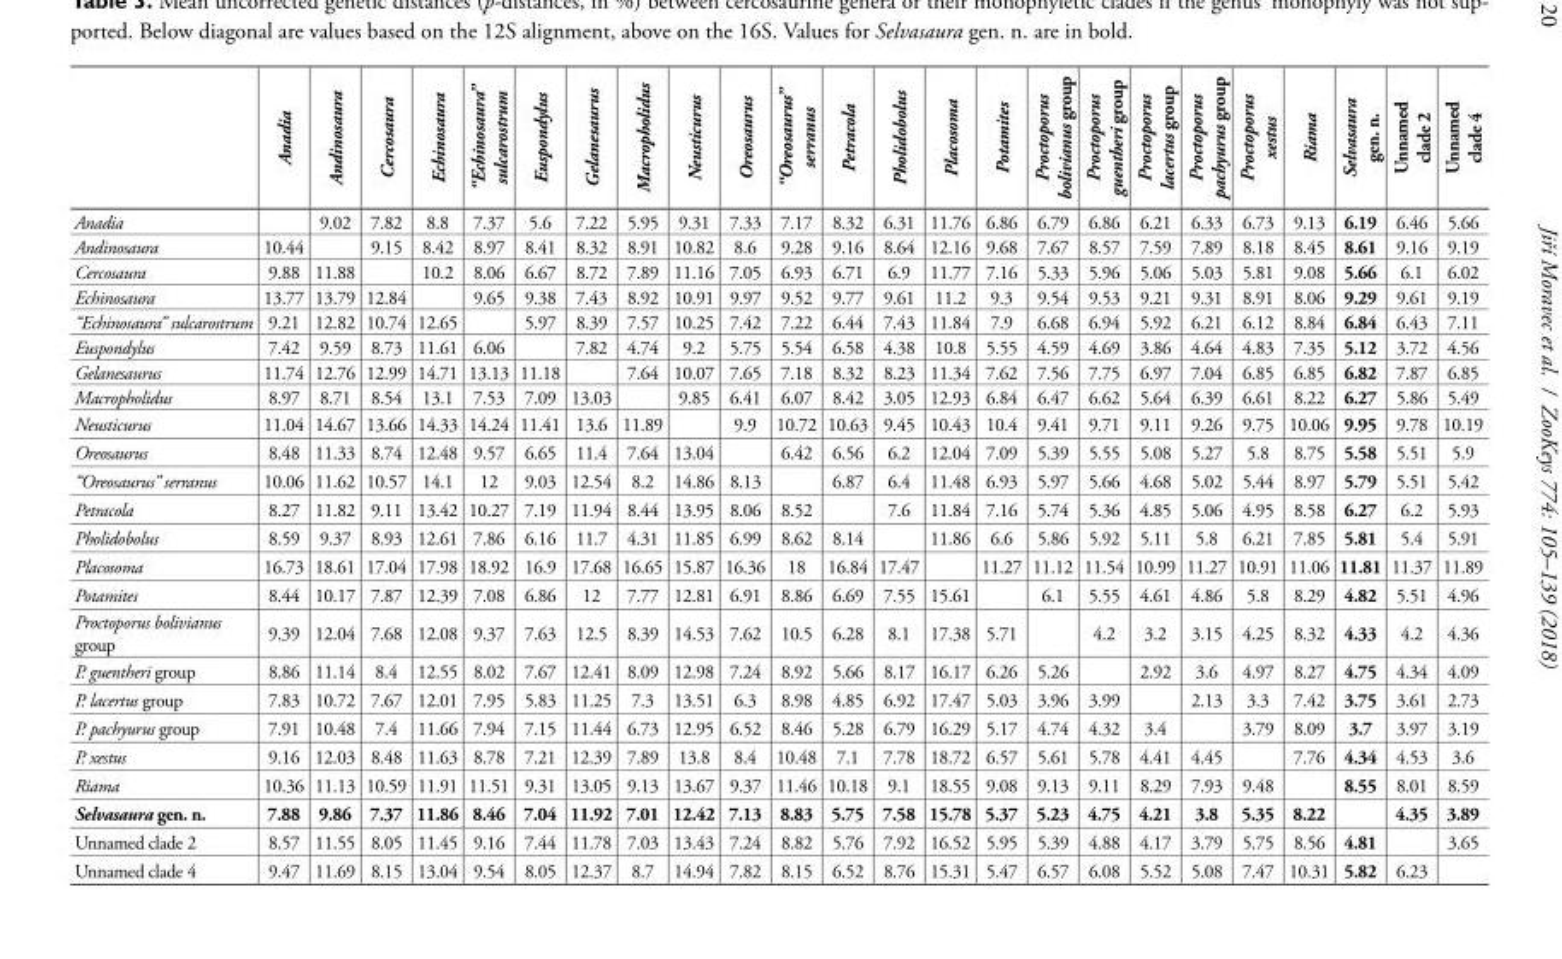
<table><thead><tr><td></td><td>Anadia</td><td>Andinosaura</td><td>Cercosaura</td><td>Echinosaura</td><td>“Echinosaura” sulcarostrum</td><td>Euspondylus</td><td>Gelanesaurus</td><td>Macropholidus</td><td>Neusticurus</td><td>Oreosaurus</td><td>“Oreosaurus” serranus</td><td>Petracola</td><td>Pholidobolus</td><td>Placosoma</td><td>Potamites</td><td>Proctoporus bolivianus group</td><td>Proctoporus guentheri group</td><td>Proctoporus lacertus group</td><td>Proctoporus pachyurus group</td><td>Proctoporus xestus</td><td>Riama</td><td>Selvasaura gen. n.</td><td>Unnamed clade 2</td><td>Unnamed clade 4</td></tr></thead><tbody><tr><td>Anadia</td><td></td><td>9.02</td><td>7.82</td><td>8.8</td><td>7.37</td><td>5.6</td><td>7.22</td><td>5.95</td><td>9.31</td><td>7.33</td><td>7.17</td><td>8.32</td><td>6.31</td><td>11.76</td><td>6.86</td><td>6.79</td><td>6.86</td><td>6.21</td><td>6.33</td><td>6.73</td><td>9.13</td><td>6.19</td><td>6.46</td><td>5.66</td></tr><tr><td>Andinosaura</td><td>10.44</td><td></td><td>9.15</td><td>8.42</td><td>8.97</td><td>8.41</td><td>8.32</td><td>8.91</td><td>10.82</td><td>8.6</td><td>9.28</td><td>9.16</td><td>8.64</td><td>12.16</td><td>9.68</td><td>7.67</td><td>8.57</td><td>7.59</td><td>7.89</td><td>8.18</td><td>8.45</td><td>8.61</td><td>9.16</td><td>9.19</td></tr><tr><td>Cercosaura</td><td>9.88</td><td>11.88</td><td></td><td>10.2</td><td>8.06</td><td>6.67</td><td>8.72</td><td>7.89</td><td>11.16</td><td>7.05</td><td>6.93</td><td>6.71</td><td>6.9</td><td>11.77</td><td>7.16</td><td>5.33</td><td>5.96</td><td>5.06</td><td>5.03</td><td>5.81</td><td>9.08</td><td>5.66</td><td>6.1</td><td>6.02</td></tr><tr><td>Echinosaura</td><td>13.77</td><td>13.79</td><td>12.84</td><td></td><td>9.65</td><td>9.38</td><td>7.43</td><td>8.92</td><td>10.91</td><td>9.97</td><td>9.52</td><td>9.77</td><td>9.61</td><td>11.2</td><td>9.3</td><td>9.54</td><td>9.53</td><td>9.21</td><td>9.31</td><td>8.91</td><td>8.06</td><td>9.29</td><td>9.61</td><td>9.19</td></tr><tr><td>“Echinosaura” sulcarostrum</td><td>9.21</td><td>12.82</td><td>10.74</td><td>12.65</td><td></td><td>5.97</td><td>8.39</td><td>7.57</td><td>10.25</td><td>7.42</td><td>7.22</td><td>6.44</td><td>7.43</td><td>11.84</td><td>7.9</td><td>6.68</td><td>6.94</td><td>5.92</td><td>6.21</td><td>6.12</td><td>8.84</td><td>6.84</td><td>6.43</td><td>7.11</td></tr><tr><td>Euspondylus</td><td>7.42</td><td>9.59</td><td>8.73</td><td>11.61</td><td>6.06</td><td></td><td>7.82</td><td>4.74</td><td>9.2</td><td>5.75</td><td>5.54</td><td>6.58</td><td>4.38</td><td>10.8</td><td>5.55</td><td>4.59</td><td>4.69</td><td>3.86</td><td>4.64</td><td>4.83</td><td>7.35</td><td>5.12</td><td>3.72</td><td>4.56</td></tr><tr><td>Gelanesaurus</td><td>11.74</td><td>12.76</td><td>12.99</td><td>14.71</td><td>13.13</td><td>11.18</td><td></td><td>7.64</td><td>10.07</td><td>7.65</td><td>7.18</td><td>8.32</td><td>8.23</td><td>11.34</td><td>7.62</td><td>7.56</td><td>7.75</td><td>6.97</td><td>7.04</td><td>6.85</td><td>6.85</td><td>6.82</td><td>7.87</td><td>6.85</td></tr><tr><td>Macropholidus</td><td>8.97</td><td>8.71</td><td>8.54</td><td>13.1</td><td>7.53</td><td>7.09</td><td>13.03</td><td></td><td>9.85</td><td>6.41</td><td>6.07</td><td>8.42</td><td>3.05</td><td>12.93</td><td>6.84</td><td>6.47</td><td>6.62</td><td>5.64</td><td>6.39</td><td>6.61</td><td>8.22</td><td>6.27</td><td>5.86</td><td>5.49</td></tr><tr><td>Neusticurus</td><td>11.04</td><td>14.67</td><td>13.66</td><td>14.33</td><td>14.24</td><td>11.41</td><td>13.6</td><td>11.89</td><td></td><td>9.9</td><td>10.72</td><td>10.63</td><td>9.45</td><td>10.43</td><td>10.4</td><td>9.41</td><td>9.71</td><td>9.11</td><td>9.26</td><td>9.75</td><td>10.06</td><td>9.95</td><td>9.78</td><td>10.19</td></tr><tr><td>Oreosaurus</td><td>8.48</td><td>11.33</td><td>8.74</td><td>12.48</td><td>9.57</td><td>6.65</td><td>11.4</td><td>7.64</td><td>13.04</td><td></td><td>6.42</td><td>6.56</td><td>6.2</td><td>12.04</td><td>7.09</td><td>5.39</td><td>5.55</td><td>5.08</td><td>5.27</td><td>5.8</td><td>8.75</td><td>5.58</td><td>5.51</td><td>5.9</td></tr><tr><td>“Oreosaurus” serranus</td><td>10.06</td><td>11.62</td><td>10.57</td><td>14.1</td><td>12</td><td>9.03</td><td>12.54</td><td>8.2</td><td>14.86</td><td>8.13</td><td></td><td>6.87</td><td>6.4</td><td>11.48</td><td>6.93</td><td>5.97</td><td>5.66</td><td>4.68</td><td>5.02</td><td>5.44</td><td>8.97</td><td>5.79</td><td>5.51</td><td>5.42</td></tr><tr><td>Petracola</td><td>8.27</td><td>11.82</td><td>9.11</td><td>13.42</td><td>10.27</td><td>7.19</td><td>11.94</td><td>8.44</td><td>13.95</td><td>8.06</td><td>8.52</td><td></td><td>7.6</td><td>11.84</td><td>7.16</td><td>5.74</td><td>5.36</td><td>4.85</td><td>5.06</td><td>4.95</td><td>8.58</td><td>6.27</td><td>6.2</td><td>5.93</td></tr><tr><td>Pholidobolus</td><td>8.59</td><td>9.37</td><td>8.93</td><td>12.61</td><td>7.86</td><td>6.16</td><td>11.7</td><td>4.31</td><td>11.85</td><td>6.99</td><td>8.62</td><td>8.14</td><td></td><td>11.86</td><td>6.6</td><td>5.86</td><td>5.92</td><td>5.11</td><td>5.8</td><td>6.21</td><td>7.85</td><td>5.81</td><td>5.4</td><td>5.91</td></tr><tr><td>Placosoma</td><td>16.73</td><td>18.61</td><td>17.04</td><td>17.98</td><td>18.92</td><td>16.9</td><td>17.68</td><td>16.65</td><td>15.87</td><td>16.36</td><td>18</td><td>16.84</td><td>17.47</td><td></td><td>11.27</td><td>11.12</td><td>11.54</td><td>10.99</td><td>11.27</td><td>10.91</td><td>11.06</td><td>11.81</td><td>11.37</td><td>11.89</td></tr><tr><td>Potamites</td><td>8.44</td><td>10.17</td><td>7.87</td><td>12.39</td><td>7.08</td><td>6.86</td><td>12</td><td>7.77</td><td>12.81</td><td>6.91</td><td>8.86</td><td>6.69</td><td>7.55</td><td>15.61</td><td></td><td>6.1</td><td>5.55</td><td>4.61</td><td>4.86</td><td>5.8</td><td>8.29</td><td>4.82</td><td>5.51</td><td>4.96</td></tr><tr><td>Proctoporus bolivianus group</td><td>9.39</td><td>12.04</td><td>7.68</td><td>12.08</td><td>9.37</td><td>7.63</td><td>12.5</td><td>8.39</td><td>14.53</td><td>7.62</td><td>10.5</td><td>6.28</td><td>8.1</td><td>17.38</td><td>5.71</td><td></td><td>4.2</td><td>3.2</td><td>3.15</td><td>4.25</td><td>8.32</td><td>4.33</td><td>4.2</td><td>4.36</td></tr><tr><td>P. guentheri group</td><td>8.86</td><td>11.14</td><td>8.4</td><td>12.55</td><td>8.02</td><td>7.67</td><td>12.41</td><td>8.09</td><td>12.98</td><td>7.24</td><td>8.92</td><td>5.66</td><td>8.17</td><td>16.17</td><td>6.26</td><td>5.26</td><td></td><td>2.92</td><td>3.6</td><td>4.97</td><td>8.27</td><td>4.75</td><td>4.34</td><td>4.09</td></tr><tr><td>P. lacertus group</td><td>7.83</td><td>10.72</td><td>7.67</td><td>12.01</td><td>7.95</td><td>5.83</td><td>11.25</td><td>7.3</td><td>13.51</td><td>6.3</td><td>8.98</td><td>4.85</td><td>6.92</td><td>17.47</td><td>5.03</td><td>3.96</td><td>3.99</td><td></td><td>2.13</td><td>3.3</td><td>7.42</td><td>3.75</td><td>3.61</td><td>2.73</td></tr><tr><td>P. pachyurus group</td><td>7.91</td><td>10.48</td><td>7.4</td><td>11.66</td><td>7.94</td><td>7.15</td><td>11.44</td><td>6.73</td><td>12.95</td><td>6.52</td><td>8.46</td><td>5.28</td><td>6.79</td><td>16.29</td><td>5.17</td><td>4.74</td><td>4.32</td><td>3.4</td><td></td><td>3.79</td><td>8.09</td><td>3.7</td><td>3.97</td><td>3.19</td></tr><tr><td>P. xestus</td><td>9.16</td><td>12.03</td><td>8.48</td><td>11.63</td><td>8.78</td><td>7.21</td><td>12.39</td><td>7.89</td><td>13.8</td><td>8.4</td><td>10.48</td><td>7.1</td><td>7.78</td><td>18.72</td><td>6.57</td><td>5.61</td><td>5.78</td><td>4.41</td><td>4.45</td><td></td><td>7.76</td><td>4.34</td><td>4.53</td><td>3.6</td></tr><tr><td>Riama</td><td>10.36</td><td>11.13</td><td>10.59</td><td>11.91</td><td>11.51</td><td>9.31</td><td>13.05</td><td>9.13</td><td>13.67</td><td>9.37</td><td>11.46</td><td>10.18</td><td>9.1</td><td>18.55</td><td>9.08</td><td>9.13</td><td>9.11</td><td>8.29</td><td>7.93</td><td>9.48</td><td></td><td>8.55</td><td>8.01</td><td>8.59</td></tr><tr><td>Selvasaura gen. n.</td><td>7.88</td><td>9.86</td><td>7.37</td><td>11.86</td><td>8.46</td><td>7.04</td><td>11.92</td><td>7.01</td><td>12.42</td><td>7.13</td><td>8.83</td><td>5.75</td><td>7.58</td><td>15.78</td><td>5.37</td><td>5.23</td><td>4.75</td><td>4.21</td><td>3.8</td><td>5.35</td><td>8.22</td><td></td><td>4.35</td><td>3.89</td></tr><tr><td>Unnamed clade 2</td><td>8.57</td><td>11.55</td><td>8.05</td><td>11.45</td><td>9.16</td><td>7.44</td><td>11.78</td><td>7.03</td><td>13.43</td><td>7.24</td><td>8.82</td><td>5.76</td><td>7.92</td><td>16.52</td><td>5.95</td><td>5.39</td><td>4.88</td><td>4.17</td><td>3.79</td><td>5.75</td><td>8.56</td><td>4.81</td><td></td><td>3.65</td></tr><tr><td>Unnamed clade 4</td><td>9.47</td><td>11.69</td><td>8.15</td><td>13.04</td><td>9.54</td><td>8.05</td><td>12.37</td><td>8.7</td><td>14.94</td><td>7.82</td><td>8.15</td><td>6.52</td><td>8.76</td><td>15.31</td><td>5.47</td><td>6.57</td><td>6.08</td><td>5.52</td><td>5.08</td><td>7.47</td><td>10.31</td><td>5.82</td><td>6.23</td><td></td></tr></tbody></table>